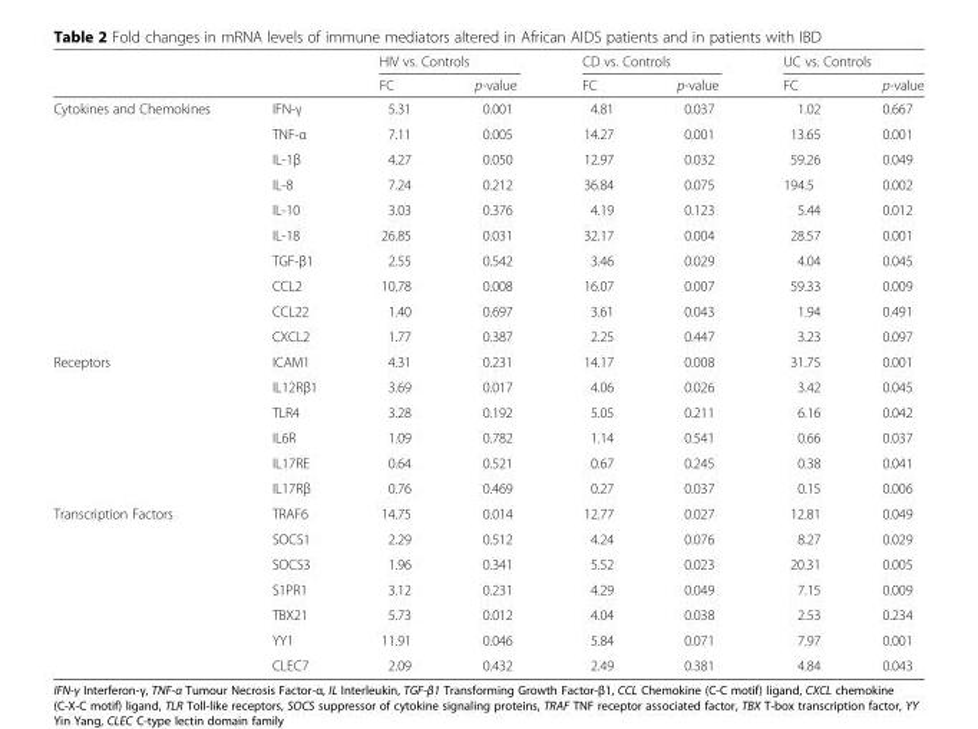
<table><thead><tr><td rowspan="2"></td><td rowspan="2"></td><td colspan="2">HIV vs. Controls</td><td colspan="2">CD vs. Controls</td><td colspan="2">UC vs. Controls</td></tr><tr><td>FC</td><td>p-value</td><td>FC</td><td>p-value</td><td>FC</td><td>p-value</td></tr></thead><tbody><tr><td rowspan="10">Cytokines and Chemokines</td><td>IFN-γ</td><td>5.31</td><td>0.001</td><td>4.81</td><td>0.037</td><td>1.02</td><td>0.667</td></tr><tr><td>TNF-α</td><td>7.11</td><td>0.005</td><td>14.27</td><td>0.001</td><td>13.65</td><td>0.001</td></tr><tr><td>IL-1β</td><td>4.27</td><td>0.050</td><td>12.97</td><td>0.032</td><td>59.26</td><td>0.049</td></tr><tr><td>IL-8</td><td>7.24</td><td>0.212</td><td>36.84</td><td>0.075</td><td>194.5</td><td>0.002</td></tr><tr><td>IL-10</td><td>3.03</td><td>0.376</td><td>4.19</td><td>0.123</td><td>5.44</td><td>0.012</td></tr><tr><td>IL-18</td><td>26.85</td><td>0.031</td><td>32.17</td><td>0.004</td><td>28.57</td><td>0.001</td></tr><tr><td>TGF-β1</td><td>2.55</td><td>0.542</td><td>3.46</td><td>0.029</td><td>4.04</td><td>0.045</td></tr><tr><td>CCL2</td><td>10.78</td><td>0.008</td><td>16.07</td><td>0.007</td><td>59.33</td><td>0.009</td></tr><tr><td>CCL22</td><td>1.40</td><td>0.697</td><td>3.61</td><td>0.043</td><td>1.94</td><td>0.491</td></tr><tr><td>CXCL2</td><td>1.77</td><td>0.387</td><td>2.25</td><td>0.447</td><td>3.23</td><td>0.097</td></tr><tr><td rowspan="6">Receptors</td><td>ICAM1</td><td>4.31</td><td>0.231</td><td>14.17</td><td>0.008</td><td>31.75</td><td>0.001</td></tr><tr><td>IL12Rβ1</td><td>3.69</td><td>0.017</td><td>4.06</td><td>0.026</td><td>3.42</td><td>0.045</td></tr><tr><td>TLR4</td><td>3.28</td><td>0.192</td><td>5.05</td><td>0.211</td><td>6.16</td><td>0.042</td></tr><tr><td>IL6R</td><td>1.09</td><td>0.782</td><td>1.14</td><td>0.541</td><td>0.66</td><td>0.037</td></tr><tr><td>IL17RE</td><td>0.64</td><td>0.521</td><td>0.67</td><td>0.245</td><td>0.38</td><td>0.041</td></tr><tr><td>IL17Rβ</td><td>0.76</td><td>0.469</td><td>0.27</td><td>0.037</td><td>0.15</td><td>0.006</td></tr><tr><td rowspan="7">Transcription Factors</td><td>TRAF6</td><td>14.75</td><td>0.014</td><td>12.77</td><td>0.027</td><td>12.81</td><td>0.049</td></tr><tr><td>SOCS1</td><td>2.29</td><td>0.512</td><td>4.24</td><td>0.076</td><td>8.27</td><td>0.029</td></tr><tr><td>SOCS3</td><td>1.96</td><td>0.341</td><td>5.52</td><td>0.023</td><td>20.31</td><td>0.005</td></tr><tr><td>S1PR1</td><td>3.12</td><td>0.231</td><td>4.29</td><td>0.049</td><td>7.15</td><td>0.009</td></tr><tr><td>TBX21</td><td>5.73</td><td>0.012</td><td>4.04</td><td>0.038</td><td>2.53</td><td>0.234</td></tr><tr><td>YY1</td><td>11.91</td><td>0.046</td><td>5.84</td><td>0.071</td><td>7.97</td><td>0.001</td></tr><tr><td>CLEC7</td><td>2.09</td><td>0.432</td><td>2.49</td><td>0.381</td><td>4.84</td><td>0.043</td></tr></tbody></table>